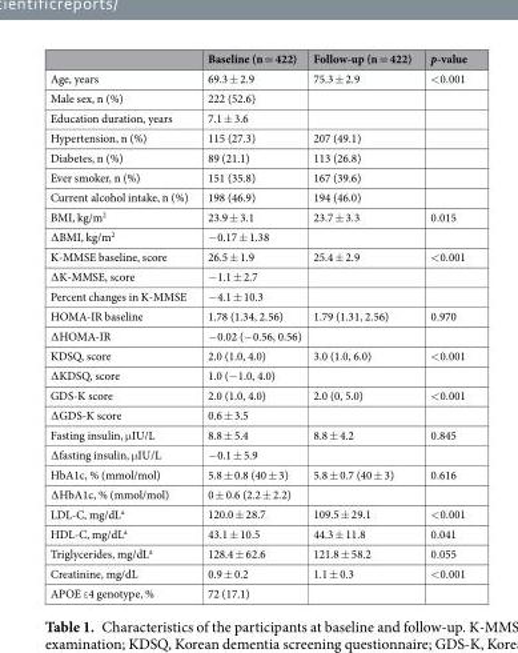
<table><thead><tr><td></td><td>Baseline (n = 422)</td><td>Follow-up (n = 422)</td><td>p-value</td></tr></thead><tbody><tr><td>Age, years</td><td>69.3 ± 2.9</td><td>75.3 ± 2.9</td><td>&lt;0.001</td></tr><tr><td>Male sex, n (%)</td><td>222 (52.6)</td><td></td><td></td></tr><tr><td>Education duration, years</td><td>7.1 ± 3.6</td><td></td><td></td></tr><tr><td>Hypertension, n (%)</td><td>115 (27.3)</td><td>207 (49.1)</td><td></td></tr><tr><td>Diabetes, n (%)</td><td>89 (21.1)</td><td>113 (26.8)</td><td></td></tr><tr><td>Ever smoker, n (%)</td><td>151 (35.8)</td><td>167 (39.6)</td><td></td></tr><tr><td>Current alcohol intake, n (%)</td><td>198 (46.9)</td><td>194 (46.0)</td><td></td></tr><tr><td>BMI, kg/m<sup>2</sup></td><td>23.9 ± 3.1</td><td>23.7 ± 3.3</td><td>0.015</td></tr><tr><td>∆BMI, kg/m<sup>2</sup></td><td>−0.17 ± 1.38</td><td></td><td></td></tr><tr><td>K-MMSE baseline, score</td><td>26.5 ± 1.9</td><td>25.4 ± 2.9</td><td>&lt;0.001</td></tr><tr><td>∆K-MMSE, score</td><td>−1.1 ± 2.7</td><td></td><td></td></tr><tr><td>Percent changes in K-MMSE</td><td>−4.1 ± 10.3</td><td></td><td></td></tr><tr><td>HOMA-IR baseline</td><td>1.78 (1.34, 2.56)</td><td>1.79 (1.31, 2.56)</td><td>0.970</td></tr><tr><td>∆HOMA-IR</td><td>−0.02 (−0.56, 0.56)</td><td></td><td></td></tr><tr><td>KDSQ, score</td><td>2.0 (1.0, 4.0)</td><td>3.0 (1.0, 6.0)</td><td>&lt;0.001</td></tr><tr><td>∆KDSQ, score</td><td>1.0 (−1.0, 4.0)</td><td></td><td></td></tr><tr><td>GDS-K score</td><td>2.0 (1.0, 4.0)</td><td>2.0 (0, 5.0)</td><td>&lt;0.001</td></tr><tr><td>∆GDS-K score</td><td>0.6 ± 3.5</td><td></td><td></td></tr><tr><td>Fasting insulin, μIU/L</td><td>8.8 ± 5.4</td><td>8.8 ± 4.2</td><td>0.845</td></tr><tr><td>∆fasting insulin, μIU/L</td><td>−0.1 ± 5.9</td><td></td><td></td></tr><tr><td>HbA1c, % (mmol/mol)</td><td>5.8 ± 0.8 (40 ± 3)</td><td>5.8 ± 0.7 (40 ± 3)</td><td>0.616</td></tr><tr><td>∆HbA1c, % (mmol/mol)</td><td>0 ± 0.6 (2.2 ± 2.2)</td><td></td><td></td></tr><tr><td>LDL-C, mg/dL<sup>a</sup></td><td>120.0 ± 28.7</td><td>109.5 ± 29.1</td><td>&lt;0.001</td></tr><tr><td>HDL-C, mg/dL<sup>a</sup></td><td>43.1 ± 10.5</td><td>44.3 ± 11.8</td><td>0.041</td></tr><tr><td>Triglycerides, mg/dL<sup>a</sup></td><td>128.4 ± 62.6</td><td>121.8 ± 58.2</td><td>0.055</td></tr><tr><td>Creatinine, mg/dL</td><td>0.9 ± 0.2</td><td>1.1 ± 0.3</td><td>&lt;0.001</td></tr><tr><td>APOE ε4 genotype, %</td><td>72 (17.1)</td><td></td><td></td></tr></tbody></table>